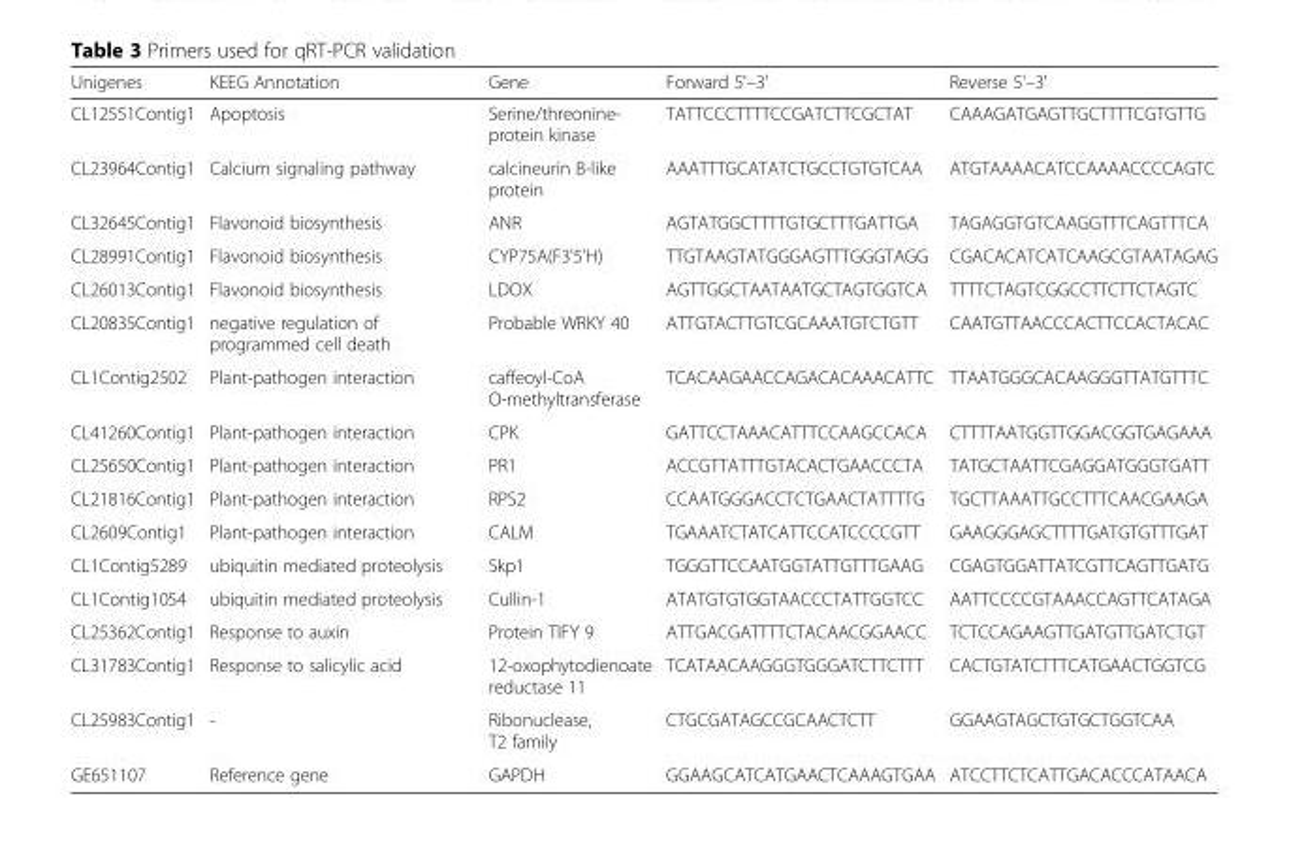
<table><thead><tr><td>Unigenes</td><td>KEEG Annotation</td><td>Gene</td><td>Forward 5&#x27;–3&#x27;</td><td>Reverse 5&#x27;–3&#x27;</td></tr></thead><tbody><tr><td>CL12551Contig1</td><td>Apoptosis</td><td>Serine/threonine- protein kinase</td><td>TATTCCCTTTTCCGATCTTCGCTAT</td><td>CAAAGATGAGTTGCTTTTCGTGTTG</td></tr><tr><td>CL23964Contig1</td><td>Calcium signaling pathway</td><td>calcineurin B-like protein</td><td>AAATTTGCATATCTGCCTGTGTCAA</td><td>ATGTAAAACATCCAAAACCCCAGTC</td></tr><tr><td>CL32645Contig1</td><td>Flavonoid biosynthesis</td><td>ANR</td><td>AGTATGGCTTTTGTGCTTTGATTGA</td><td>TAGAGGTGTCAAGGTTTCAGTTTCA</td></tr><tr><td>CL28991Contig1</td><td>Flavonoid biosynthesis</td><td>CYP75A(F3&#x27;5&#x27;H)</td><td>TTGTAAGTATGGGAGTTTGGGTAGG</td><td>CGACACATCATCAAGCGTAATAGAG</td></tr><tr><td>CL26013Contig1</td><td>Flavonoid biosynthesis</td><td>LDOX</td><td>AGTTGGCTAATAATGCTAGTGGTCA</td><td>TTTTCTAGTCGGCCTTCTTCTAGTC</td></tr><tr><td>CL20835Contig1</td><td>negative regulation of programmed cell death</td><td>Probable WRKY 40</td><td>ATTGTACTTGTCGCAAATGTCTGTT</td><td>CAATGTTAACCCACTTCCACTACAC</td></tr><tr><td>CL1Contig2502</td><td>Plant-pathogen interaction</td><td>caffeoyl-CoA O-methyltransferase</td><td>TCACAAGAACCAGACACAAACATTC</td><td>TTAATGGGCACAAGGGTTATGTTTC</td></tr><tr><td>CL41260Contig1</td><td>Plant-pathogen interaction</td><td>CPK</td><td>GATTCCTAAACATTTCCAAGCCACA</td><td>CTTTTAATGGTTGGACGGTGAGAAA</td></tr><tr><td>CL25650Contig1</td><td>Plant-pathogen interaction</td><td>PR1</td><td>ACCGTTATTTGTACACTGAACCCTA</td><td>TATGCTAATTCGAGGATGGGTGATT</td></tr><tr><td>CL21816Contig1</td><td>Plant-pathogen interaction</td><td>RPS2</td><td>CCAATGGGACCTCTGAACTATTTTG</td><td>TGCTTAAATTGCCTTTCAACGAAGA</td></tr><tr><td>CL2609Contig1</td><td>Plant-pathogen interaction</td><td>CALM</td><td>TGAAATCTATCATTCCATCCCCGTT</td><td>GAAGGGAGCTTTTGATGTGTTTGAT</td></tr><tr><td>CL1Contig5289</td><td>ubiquitin mediated proteolysis</td><td>Skp1</td><td>TGGGTTCCAATGGTATTGTTTGAAG</td><td>CGAGTGGATTATCGTTCAGTTGATG</td></tr><tr><td>CL1Contig1054</td><td>ubiquitin mediated proteolysis</td><td>Cullin-1</td><td>ATATGTGTGGTAACCCTATTGGTCC</td><td>AATTCCCCGTAAACCAGTTCATAGA</td></tr><tr><td>CL25362Contig1</td><td>Response to auxin</td><td>Protein TIFY 9</td><td>ATTGACGATTTTCTACAACGGAACC</td><td>TCTCCAGAAGTTGATGTTGATCTGT</td></tr><tr><td>CL31783Contig1</td><td>Response to salicylic acid</td><td>12-oxophytodienoate reductase 11</td><td>TCATAACAAGGGTGGGATCTTCTTT</td><td>CACTGTATCTTTCATGAACTGGTCG</td></tr><tr><td>CL25983Contig1</td><td>-</td><td>Ribonuclease, T2 family</td><td>CTGCGATAGCCGCAACTCTT</td><td>GGAAGTAGCTGTGCTGGTCAA</td></tr><tr><td>GE651107</td><td>Reference gene</td><td>GAPDH</td><td>GGAAGCATCATGAACTCAAAGTGAA</td><td>ATCCTTCTCATTGACACCCATAACA</td></tr></tbody></table>